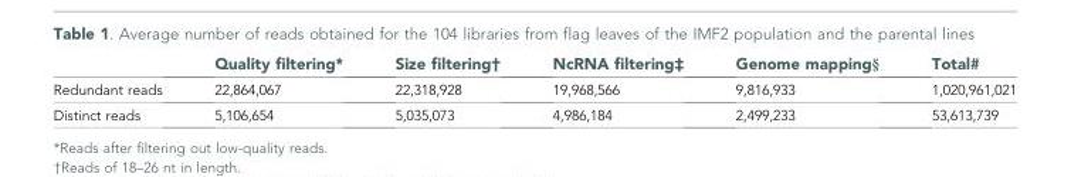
<table><thead><tr><td></td><td>Quality filtering*</td><td>Size filtering†</td><td>NcRNA filtering‡</td><td>Genome mapping§</td><td>Total#</td></tr></thead><tbody><tr><td>Redundant reads</td><td>22,864,067</td><td>22,318,928</td><td>19,968,566</td><td>9,816,933</td><td>1,020,961,021</td></tr><tr><td>Distinct reads</td><td>5,106,654</td><td>5,035,073</td><td>4,986,184</td><td>2,499,233</td><td>53,613,739</td></tr></tbody></table>